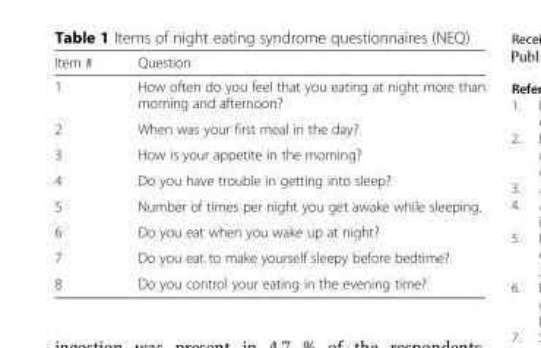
<table><thead><tr><td>Item #</td><td>Question</td></tr></thead><tbody><tr><td>1</td><td>How often do you feel that you eating at night more than morning and afternoon?</td></tr><tr><td>2</td><td>When was your first meal in the day?</td></tr><tr><td>3</td><td>How is your appetite in the morning?</td></tr><tr><td>4</td><td>Do you have trouble in getting into sleep?</td></tr><tr><td>5</td><td>Number of times per night you get awake while sleeping.</td></tr><tr><td>6</td><td>Do you eat when you wake up at night?</td></tr><tr><td>7</td><td>Do you eat to make yourself sleepy before bedtime?</td></tr><tr><td>8</td><td>Do you control your eating in the evening time?</td></tr></tbody></table>